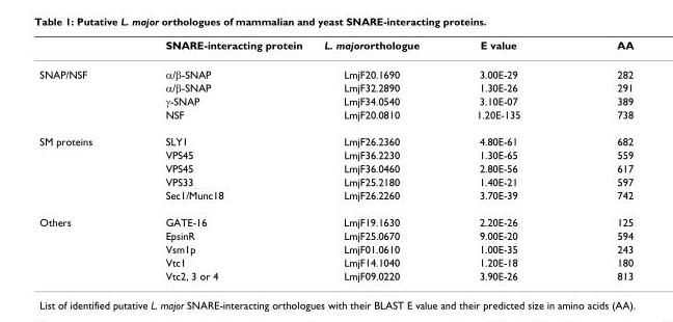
<table><thead><tr><td></td><td>SNARE-interacting protein</td><td>L. majororthologue</td><td>E value</td><td>AA</td></tr></thead><tbody><tr><td rowspan="4">SNAP/NSF</td><td>α/β-SNAP</td><td>LmjF20.1690</td><td>3.00E-29</td><td>282</td></tr><tr><td>α/β-SNAP</td><td>LmjF32.2890</td><td>1.30E-26</td><td>291</td></tr><tr><td>γ-SNAP</td><td>LmjF34.0540</td><td>3.10E-07</td><td>389</td></tr><tr><td>NSF</td><td>LmjF20.0810</td><td>1.20E-135</td><td>738</td></tr><tr><td rowspan="5">SM proteins</td><td>SLY1</td><td>LmjF26.2360</td><td>4.80E-61</td><td>682</td></tr><tr><td>VPS45</td><td>LmjF36.2230</td><td>1.30E-65</td><td>559</td></tr><tr><td>VPS45</td><td>LmjF36.0460</td><td>2.80E-56</td><td>617</td></tr><tr><td>VPS33</td><td>LmjF25.2180</td><td>1.40E-21</td><td>597</td></tr><tr><td>Sec1/Munc18</td><td>LmjF26.2260</td><td>3.70E-39</td><td>742</td></tr><tr><td rowspan="5">Others</td><td>GATE-16</td><td>LmjF19.1630</td><td>2.20E-26</td><td>125</td></tr><tr><td>EpsinR</td><td>LmjF25.0670</td><td>9.00E-20</td><td>594</td></tr><tr><td>Vsm1p</td><td>LmjF01.0610</td><td>1.00E-35</td><td>243</td></tr><tr><td>Vtc1</td><td>LmjF14.1040</td><td>1.20E-18</td><td>180</td></tr><tr><td>Vtc2, 3 or 4</td><td>LmjF09.0220</td><td>3.90E-26</td><td>813</td></tr></tbody></table>